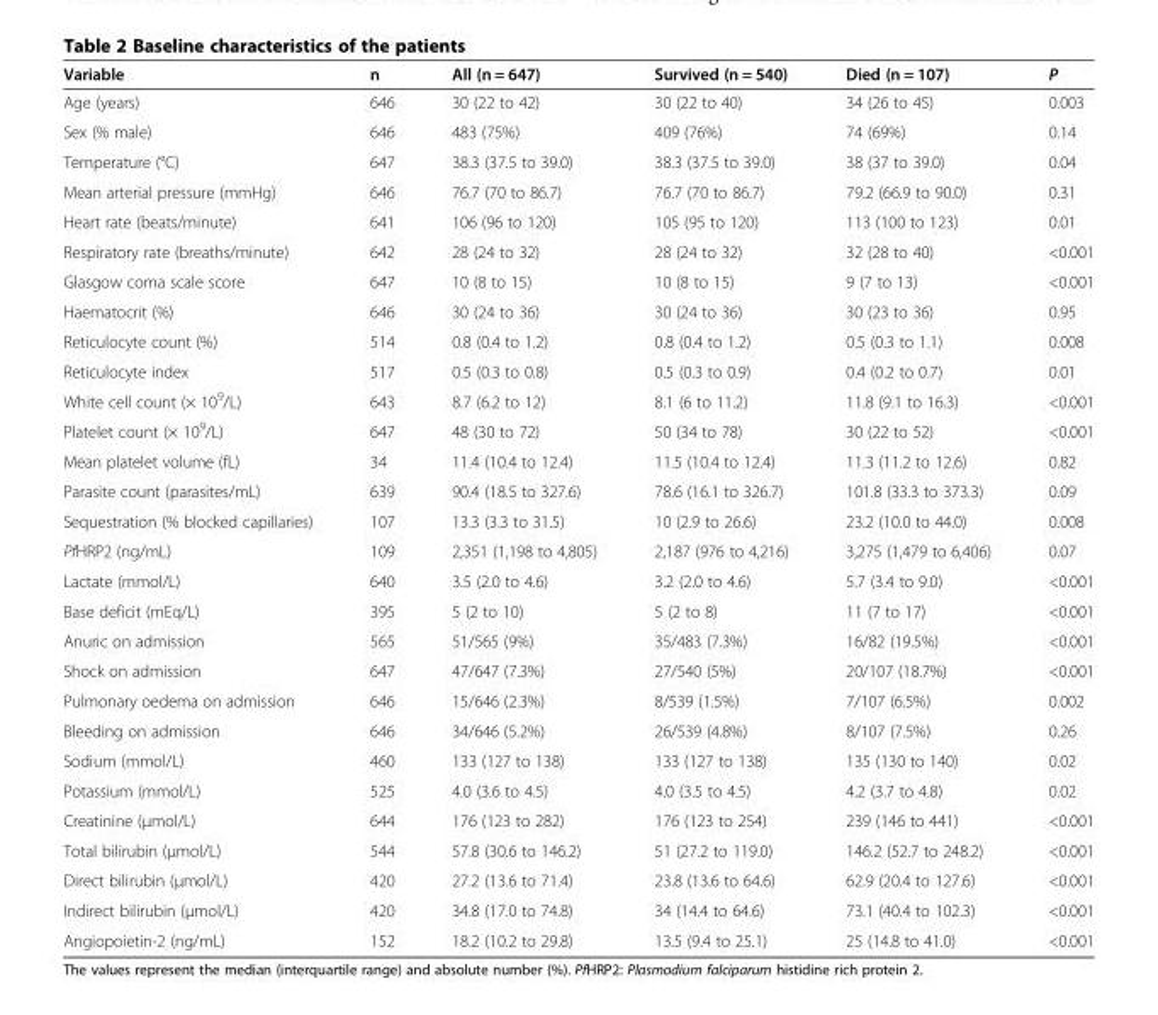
<table><thead><tr><td>Variable</td><td>n</td><td>All (n = 647)</td><td>Survived (n = 540)</td><td>Died (n = 107)</td><td>P</td></tr></thead><tbody><tr><td>Age (years)</td><td>646</td><td>30 (22 to 42)</td><td>30 (22 to 40)</td><td>34 (26 to 45)</td><td>0.003</td></tr><tr><td>Sex (% male)</td><td>646</td><td>483 (75%)</td><td>409 (76%)</td><td>74 (69%)</td><td>0.14</td></tr><tr><td>Temperature (°C)</td><td>647</td><td>38.3 (37.5 to 39.0)</td><td>38.3 (37.5 to 39.0)</td><td>38 (37 to 39.0)</td><td>0.04</td></tr><tr><td>Mean arterial pressure (mmHg)</td><td>646</td><td>76.7 (70 to 86.7)</td><td>76.7 (70 to 86.7)</td><td>79.2 (66.9 to 90.0)</td><td>0.31</td></tr><tr><td>Heart rate (beats/minute)</td><td>641</td><td>106 (96 to 120)</td><td>105 (95 to 120)</td><td>113 (100 to 123)</td><td>0.01</td></tr><tr><td>Respiratory rate (breaths/minute)</td><td>642</td><td>28 (24 to 32)</td><td>28 (24 to 32)</td><td>32 (28 to 40)</td><td>&lt;0.001</td></tr><tr><td>Glasgow coma scale score</td><td>647</td><td>10 (8 to 15)</td><td>10 (8 to 15)</td><td>9 (7 to 13)</td><td>&lt;0.001</td></tr><tr><td>Haematocrit (%)</td><td>646</td><td>30 (24 to 36)</td><td>30 (24 to 36)</td><td>30 (23 to 36)</td><td>0.95</td></tr><tr><td>Reticulocyte count (%)</td><td>514</td><td>0.8 (0.4 to 1.2)</td><td>0.8 (0.4 to 1.2)</td><td>0.5 (0.3 to 1.1)</td><td>0.008</td></tr><tr><td>Reticulocyte index</td><td>517</td><td>0.5 (0.3 to 0.8)</td><td>0.5 (0.3 to 0.9)</td><td>0.4 (0.2 to 0.7)</td><td>0.01</td></tr><tr><td>White cell count (× 10<sup>9</sup>/L)</td><td>643</td><td>8.7 (6.2 to 12)</td><td>8.1 (6 to 11.2)</td><td>11.8 (9.1 to 16.3)</td><td>&lt;0.001</td></tr><tr><td>Platelet count (× 10<sup>9</sup>/L)</td><td>647</td><td>48 (30 to 72)</td><td>50 (34 to 78)</td><td>30 (22 to 52)</td><td>&lt;0.001</td></tr><tr><td>Mean platelet volume (fL)</td><td>34</td><td>11.4 (10.4 to 12.4)</td><td>11.5 (10.4 to 12.4)</td><td>11.3 (11.2 to 12.6)</td><td>0.82</td></tr><tr><td>Parasite count (parasites/mL)</td><td>639</td><td>90.4 (18.5 to 327.6)</td><td>78.6 (16.1 to 326.7)</td><td>101.8 (33.3 to 373.3)</td><td>0.09</td></tr><tr><td>Sequestration (% blocked capillaries)</td><td>107</td><td>13.3 (3.3 to 31.5)</td><td>10 (2.9 to 26.6)</td><td>23.2 (10.0 to 44.0)</td><td>0.008</td></tr><tr><td>PfHRP2 (ng/mL)</td><td>109</td><td>2,351 (1,198 to 4,805)</td><td>2,187 (976 to 4,216)</td><td>3,275 (1,479 to 6,406)</td><td>0.07</td></tr><tr><td>Lactate (mmol/L)</td><td>640</td><td>3.5 (2.0 to 4.6)</td><td>3.2 (2.0 to 4.6)</td><td>5.7 (3.4 to 9.0)</td><td>&lt;0.001</td></tr><tr><td>Base deficit (mEq/L)</td><td>395</td><td>5 (2 to 10)</td><td>5 (2 to 8)</td><td>11 (7 to 17)</td><td>&lt;0.001</td></tr><tr><td>Anuric on admission</td><td>565</td><td>51/565 (9%)</td><td>35/483 (7.3%)</td><td>16/82 (19.5%)</td><td>&lt;0.001</td></tr><tr><td>Shock on admission</td><td>647</td><td>47/647 (7.3%)</td><td>27/540 (5%)</td><td>20/107 (18.7%)</td><td>&lt;0.001</td></tr><tr><td>Pulmonary oedema on admission</td><td>646</td><td>15/646 (2.3%)</td><td>8/539 (1.5%)</td><td>7/107 (6.5%)</td><td>0.002</td></tr><tr><td>Bleeding on admission</td><td>646</td><td>34/646 (5.2%)</td><td>26/539 (4.8%)</td><td>8/107 (7.5%)</td><td>0.26</td></tr><tr><td>Sodium (mmol/L)</td><td>460</td><td>133 (127 to 138)</td><td>133 (127 to 138)</td><td>135 (130 to 140)</td><td>0.02</td></tr><tr><td>Potassium (mmol/L)</td><td>525</td><td>4.0 (3.6 to 4.5)</td><td>4.0 (3.5 to 4.5)</td><td>4.2 (3.7 to 4.8)</td><td>0.02</td></tr><tr><td>Creatinine (μmol/L)</td><td>644</td><td>176 (123 to 282)</td><td>176 (123 to 254)</td><td>239 (146 to 441)</td><td>&lt;0.001</td></tr><tr><td>Total bilirubin (μmol/L)</td><td>544</td><td>57.8 (30.6 to 146.2)</td><td>51 (27.2 to 119.0)</td><td>146.2 (52.7 to 248.2)</td><td>&lt;0.001</td></tr><tr><td>Direct bilirubin (μmol/L)</td><td>420</td><td>27.2 (13.6 to 71.4)</td><td>23.8 (13.6 to 64.6)</td><td>62.9 (20.4 to 127.6)</td><td>&lt;0.001</td></tr><tr><td>Indirect bilirubin (μmol/L)</td><td>420</td><td>34.8 (17.0 to 74.8)</td><td>34 (14.4 to 64.6)</td><td>73.1 (40.4 to 102.3)</td><td>&lt;0.001</td></tr><tr><td>Angiopoietin-2 (ng/mL)</td><td>152</td><td>18.2 (10.2 to 29.8)</td><td>13.5 (9.4 to 25.1)</td><td>25 (14.8 to 41.0)</td><td>&lt;0.001</td></tr></tbody></table>